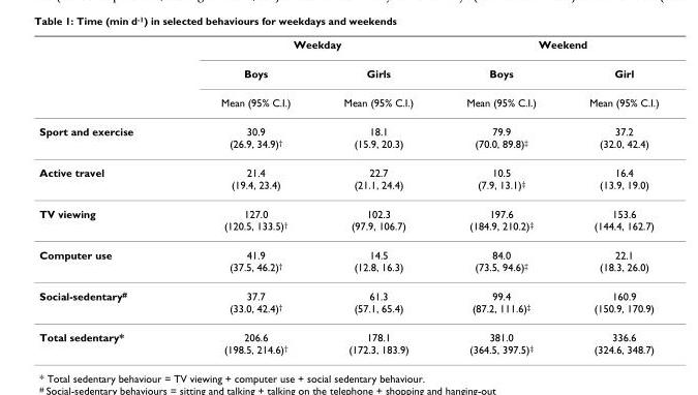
<table><thead><tr><td rowspan="3"></td><td colspan="2">Weekday</td><td colspan="2">Weekend</td></tr><tr><td rowspan="2">Boys Mean (95% C.I.)</td><td rowspan="2">Girls Mean (95% C.I.)</td><td rowspan="2">Boys Mean (95% C.I.)</td><td rowspan="2">Girl Mean (95% C.I.)</td></tr><tr></tr></thead><tbody><tr><td>Sport and exercise</td><td>30.9 (26.9, 34.9)<sup>†</sup></td><td>18.1 (15.9, 20.3)</td><td>79.9 (70.0, 89.8)<sup>‡</sup></td><td>37.2 (32.0, 42.4)</td></tr><tr><td>Active travel</td><td>21.4 (19.4, 23.4)</td><td>22.7 (21.1, 24.4)</td><td>10.5 (7.9, 13.1)<sup>‡</sup></td><td>16.4 (13.9, 19.0)</td></tr><tr><td>TV viewing</td><td>127.0 (120.5, 133.5)<sup>†</sup></td><td>102.3 (97.9, 106.7)</td><td>197.6 (184.9, 210.2)<sup>‡</sup></td><td>153.6 (144.4, 162.7)</td></tr><tr><td>Computer use</td><td>41.9 (37.5, 46.2)<sup>†</sup></td><td>14.5 (12.8, 16.3)</td><td>84.0 (73.5, 94.6)<sup>‡</sup></td><td>22.1 (18.3, 26.0)</td></tr><tr><td>Social-sedentary<sup>#</sup></td><td>37.7 (33.0, 42.4)<sup>†</sup></td><td>61.3 (57.1, 65.4)</td><td>99.4 (87.2, 111.6)<sup>‡</sup></td><td>160.9 (150.9, 170.9)</td></tr><tr><td>Total sedentary*</td><td>206.6 (198.5, 214.6)<sup>†</sup></td><td>178.1 (172.3, 183.9)</td><td>381.0 (364.5, 397.5)<sup>‡</sup></td><td>336.6 (324.6, 348.7)</td></tr></tbody></table>